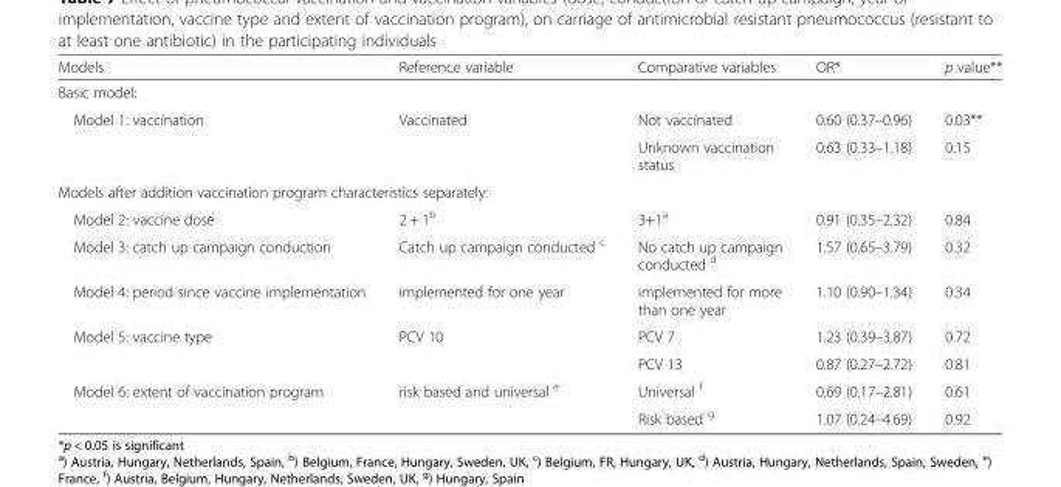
<table><thead><tr><td>Models</td><td>Reference variable</td><td>Comparative variables</td><td>OR*</td><td>p value**</td></tr></thead><tbody><tr><td colspan="5">Basic model:</td></tr><tr><td rowspan="2">Model 1: vaccination</td><td rowspan="2">Vaccinated</td><td>Not vaccinated</td><td>0.60 (0.37–0.96)</td><td>0.03**</td></tr><tr><td>Unknown vaccination status</td><td>0.63 (0.33–1.18)</td><td>0.15</td></tr><tr><td colspan="5">Models after addition vaccination program characteristics separately:</td></tr><tr><td>Model 2: vaccine dose</td><td>2 + 1<sup>b</sup></td><td>3+1<sup>a</sup></td><td>0.91 (0.35–2.32)</td><td>0.84</td></tr><tr><td>Model 3: catch up campaign conduction</td><td>Catch up campaign conducted <sup>c</sup></td><td>No catch up campaign conducted <sup>d</sup></td><td>1.57 (0.65–3.79)</td><td>0.32</td></tr><tr><td>Model 4: period since vaccine implementation</td><td>implemented for one year</td><td>implemented for more than one year</td><td>1.10 (0.90–1.34)</td><td>0.34</td></tr><tr><td rowspan="2">Model 5: vaccine type</td><td rowspan="2">PCV 10</td><td>PCV 7</td><td>1.23 (0.39–3.87)</td><td>0.72</td></tr><tr><td>PCV 13</td><td>0.87 (0.27–2.72)</td><td>0.81</td></tr><tr><td rowspan="2">Model 6: extent of vaccination program</td><td rowspan="2">risk based and universal <sup>e</sup></td><td>Universal <sup>f</sup></td><td>0.69 (0.17–2.81)</td><td>0.61</td></tr><tr><td>Risk based <sup>g</sup></td><td>1.07 (0.24–4.69)</td><td>0.92</td></tr></tbody></table>